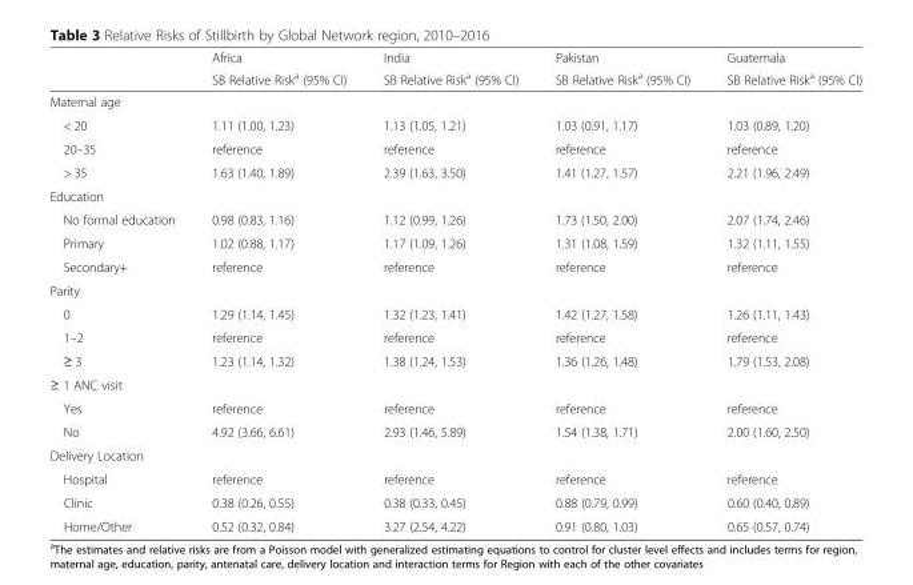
<table><thead><tr><td rowspan="2"></td><td rowspan="2">Africa SB Relative Risk<sup>a</sup> (95% CI)</td><td rowspan="2">India SB Relative Risk<sup>a</sup> (95% CI)</td><td rowspan="2">Pakistan SB Relative Risk<sup>a</sup> (95% CI)</td><td rowspan="2">Guatemala SB Relative Risk<sup>a</sup> (95% CI)</td></tr><tr></tr></thead><tbody><tr><td colspan="5">Maternal age</td></tr><tr><td>&lt; 20</td><td>1.11 (1.00, 1.23)</td><td>1.13 (1.05, 1.21)</td><td>1.03 (0.91, 1.17)</td><td>1.03 (0.89, 1.20)</td></tr><tr><td>20–35</td><td>reference</td><td>reference</td><td>reference</td><td>reference</td></tr><tr><td>&gt; 35</td><td>1.63 (1.40, 1.89)</td><td>2.39 (1.63, 3.50)</td><td>1.41 (1.27, 1.57)</td><td>2.21 (1.96, 2.49)</td></tr><tr><td colspan="5">Education</td></tr><tr><td>No formal education</td><td>0.98 (0.83, 1.16)</td><td>1.12 (0.99, 1.26)</td><td>1.73 (1.50, 2.00)</td><td>2.07 (1.74, 2.46)</td></tr><tr><td>Primary</td><td>1.02 (0.88, 1.17)</td><td>1.17 (1.09, 1.26)</td><td>1.31 (1.08, 1.59)</td><td>1.32 (1.11, 1.55)</td></tr><tr><td>Secondary+</td><td>reference</td><td>reference</td><td>reference</td><td>reference</td></tr><tr><td colspan="5">Parity</td></tr><tr><td>0</td><td>1.29 (1.14, 1.45)</td><td>1.32 (1.23, 1.41)</td><td>1.42 (1.27, 1.58)</td><td>1.26 (1.11, 1.43)</td></tr><tr><td>1–2</td><td>reference</td><td>reference</td><td>reference</td><td>reference</td></tr><tr><td>≥ 3</td><td>1.23 (1.14, 1.32)</td><td>1.38 (1.24, 1.53)</td><td>1.36 (1.26, 1.48)</td><td>1.79 (1.53, 2.08)</td></tr><tr><td colspan="5">≥ 1 ANC visit</td></tr><tr><td>Yes</td><td>reference</td><td>reference</td><td>reference</td><td>reference</td></tr><tr><td>No</td><td>4.92 (3.66, 6.61)</td><td>2.93 (1.46, 5.89)</td><td>1.54 (1.38, 1.71)</td><td>2.00 (1.60, 2.50)</td></tr><tr><td colspan="5">Delivery Location</td></tr><tr><td>Hospital</td><td>reference</td><td>reference</td><td>reference</td><td>reference</td></tr><tr><td>Clinic</td><td>0.38 (0.26, 0.55)</td><td>0.38 (0.33, 0.45)</td><td>0.88 (0.79, 0.99)</td><td>0.60 (0.40, 0.89)</td></tr><tr><td>Home/Other</td><td>0.52 (0.32, 0.84)</td><td>3.27 (2.54, 4.22)</td><td>0.91 (0.80, 1.03)</td><td>0.65 (0.57, 0.74)</td></tr></tbody></table>